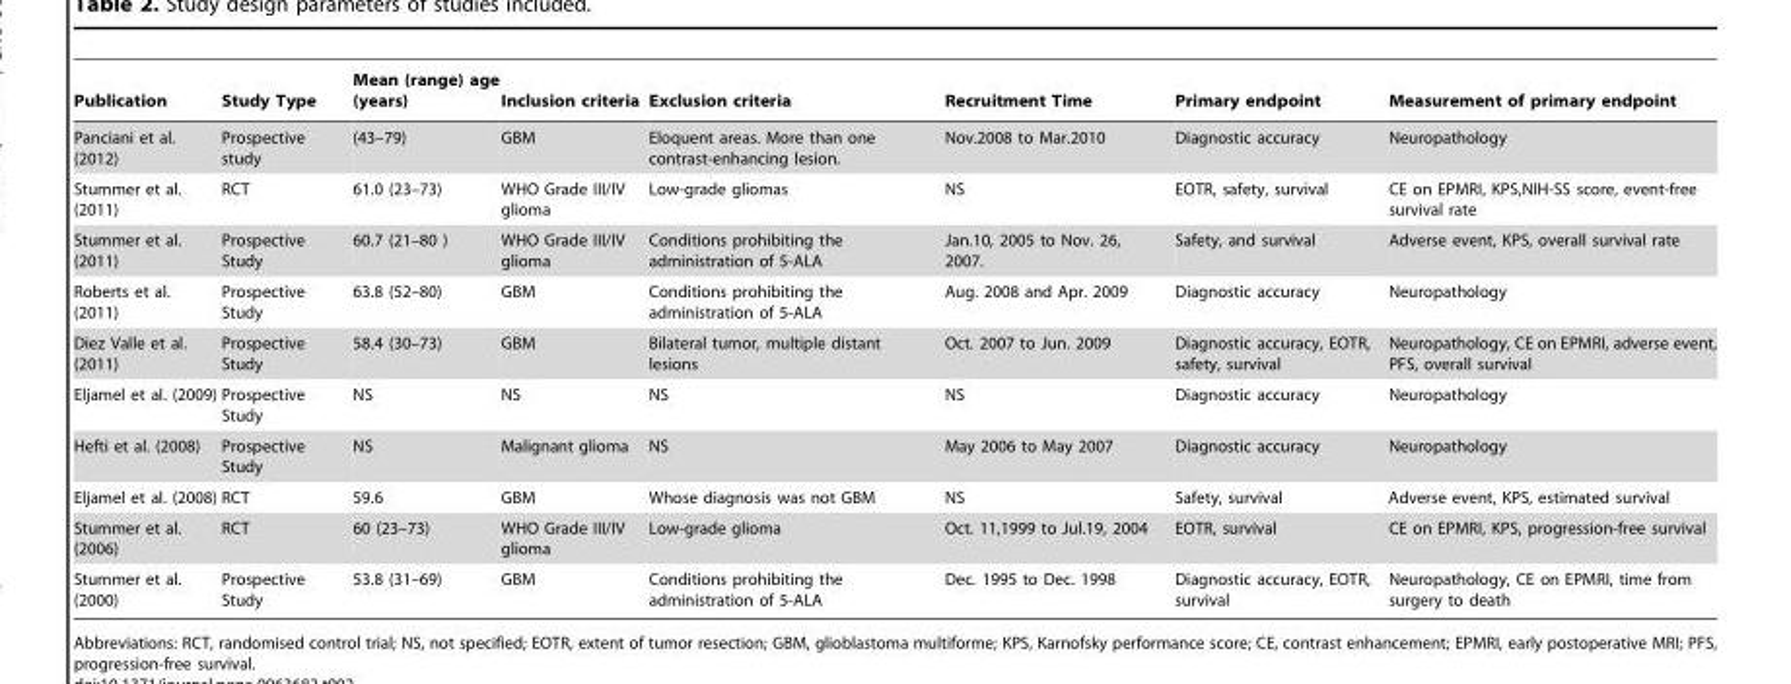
<table><thead><tr><td>Publication</td><td>Study Type</td><td>Mean (range) age (years)</td><td>Inclusion criteria</td><td>Exclusion criteria</td><td>Recruitment Time</td><td>Primary endpoint</td><td>Measurement of primary endpoint</td></tr></thead><tbody><tr><td>Panciani et al. (2012)</td><td>Prospective study</td><td>(43–79)</td><td>GBM</td><td>Eloquent areas. More than one contrast-enhancing lesion.</td><td>Nov.2008 to Mar.2010</td><td>Diagnostic accuracy</td><td>Neuropathology</td></tr><tr><td>Stummer et al. (2011)</td><td>RCT</td><td>61.0 (23–73)</td><td>WHO Grade III/IV glioma</td><td>Low-grade gliomas</td><td>NS</td><td>EOTR, safety, survival</td><td>CE on EPMRI, KPS,NIH-SS score, event-free survival rate</td></tr><tr><td>Stummer et al. (2011)</td><td>Prospective Study</td><td>60.7 (21–80 )</td><td>WHO Grade III/IV glioma</td><td>Conditions prohibiting the administration of 5-ALA</td><td>Jan.10, 2005 to Nov. 26, 2007.</td><td>Safety, and survival</td><td>Adverse event, KPS, overall survival rate</td></tr><tr><td>Roberts et al. (2011)</td><td>Prospective Study</td><td>63.8 (52–80)</td><td>GBM</td><td>Conditions prohibiting the administration of 5-ALA</td><td>Aug. 2008 and Apr. 2009</td><td>Diagnostic accuracy</td><td>Neuropathology</td></tr><tr><td>Diez Valle et al. (2011)</td><td>Prospective Study</td><td>58.4 (30–73)</td><td>GBM</td><td>Bilateral tumor, multiple distant lesions</td><td>Oct. 2007 to Jun. 2009</td><td>Diagnostic accuracy, EOTR, safety, survival</td><td>Neuropathology, CE on EPMRI, adverse event, PFS, overall survival</td></tr><tr><td>Eljamel et al. (2009)</td><td>Prospective Study</td><td>NS</td><td>NS</td><td>NS</td><td>NS</td><td>Diagnostic accuracy</td><td>Neuropathology</td></tr><tr><td>Hefti et al. (2008)</td><td>Prospective Study</td><td>NS</td><td>Malignant glioma</td><td>NS</td><td>May 2006 to May 2007</td><td>Diagnostic accuracy</td><td>Neuropathology</td></tr><tr><td>Eljamel et al. (2008)</td><td>RCT</td><td>59.6</td><td>GBM</td><td>Whose diagnosis was not GBM</td><td>NS</td><td>Safety, survival</td><td>Adverse event, KPS, estimated survival</td></tr><tr><td>Stummer et al. (2006)</td><td>RCT</td><td>60 (23–73)</td><td>WHO Grade III/IV glioma</td><td>Low-grade glioma</td><td>Oct. 11,1999 to Jul.19, 2004</td><td>EOTR, survival</td><td>CE on EPMRI, KPS, progression-free survival</td></tr><tr><td>Stummer et al. (2000)</td><td>Prospective Study</td><td>53.8 (31–69)</td><td>GBM</td><td>Conditions prohibiting the administration of 5-ALA</td><td>Dec. 1995 to Dec. 1998</td><td>Diagnostic accuracy, EOTR, survival</td><td>Neuropathology, CE on EPMRI, time from surgery to death</td></tr></tbody></table>